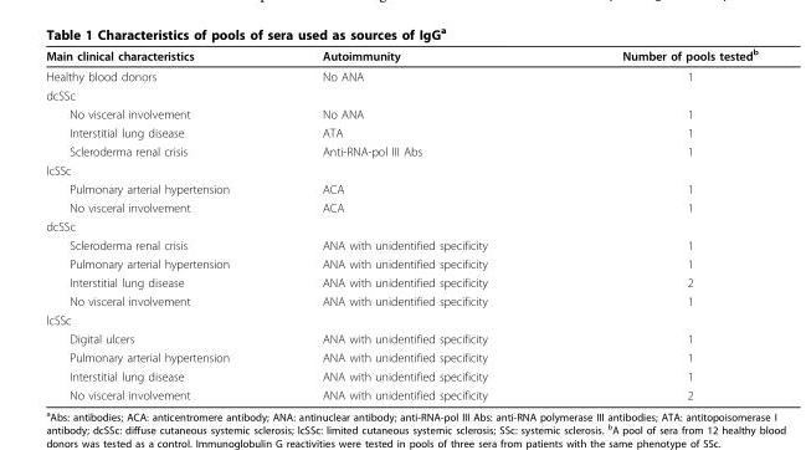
<table><thead><tr><td>Main clinical characteristics</td><td>Autoimmunity</td><td>Number of pools tested<sup>b</sup></td></tr></thead><tbody><tr><td>Healthy blood donors</td><td>No ANA</td><td>1</td></tr><tr><td colspan="3">dcSSc</td></tr><tr><td>No visceral involvement</td><td>No ANA</td><td>1</td></tr><tr><td>Interstitial lung disease</td><td>ATA</td><td>1</td></tr><tr><td>Scleroderma renal crisis</td><td>Anti-RNA-pol III Abs</td><td>1</td></tr><tr><td colspan="3">lcSSc</td></tr><tr><td>Pulmonary arterial hypertension</td><td>ACA</td><td>1</td></tr><tr><td>No visceral involvement</td><td>ACA</td><td>1</td></tr><tr><td colspan="3">dcSSc</td></tr><tr><td>Scleroderma renal crisis</td><td>ANA with unidentified specificity</td><td>1</td></tr><tr><td>Pulmonary arterial hypertension</td><td>ANA with unidentified specificity</td><td>1</td></tr><tr><td>Interstitial lung disease</td><td>ANA with unidentified specificity</td><td>2</td></tr><tr><td>No visceral involvement</td><td>ANA with unidentified specificity</td><td>1</td></tr><tr><td colspan="3">lcSSc</td></tr><tr><td>Digital ulcers</td><td>ANA with unidentified specificity</td><td>1</td></tr><tr><td>Pulmonary arterial hypertension</td><td>ANA with unidentified specificity</td><td>1</td></tr><tr><td>Interstitial lung disease</td><td>ANA with unidentified specificity</td><td>1</td></tr><tr><td>No visceral involvement</td><td>ANA with unidentified specificity</td><td>2</td></tr></tbody></table>